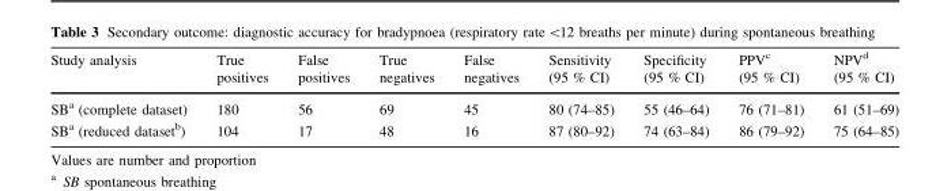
<table><thead><tr><td>Study analysis</td><td>True positives</td><td>False positives</td><td>True negatives</td><td>False negatives</td><td>Sensitivity (95 % CI)</td><td>Specificity (95 % CI)</td><td>PPV<sup>c</sup> (95 % CI)</td><td>NPV<sup>d</sup> (95 % CI)</td></tr></thead><tbody><tr><td>SB<sup>a</sup> (complete dataset)</td><td>180</td><td>56</td><td>69</td><td>45</td><td>80 (74–85)</td><td>55 (46–64)</td><td>76 (71–81)</td><td>61 (51–69)</td></tr><tr><td>SB<sup>a</sup> (reduced dataset<sup>b</sup>)</td><td>104</td><td>17</td><td>48</td><td>16</td><td>87 (80–92)</td><td>74 (63–84)</td><td>86 (79–92)</td><td>75 (64–85)</td></tr></tbody></table>